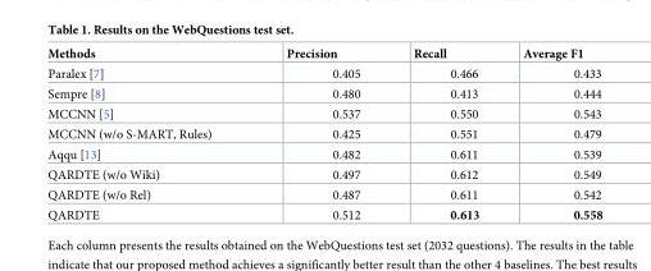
<table><thead><tr><td>Methods</td><td>Precision</td><td>Recall</td><td>Average F1</td></tr></thead><tbody><tr><td>Paralex [7]</td><td>0.405</td><td>0.466</td><td>0.433</td></tr><tr><td>Sempre [8]</td><td>0.480</td><td>0.413</td><td>0.444</td></tr><tr><td>MCCNN [5]</td><td>0.537</td><td>0.550</td><td>0.543</td></tr><tr><td>MCCNN (w/o S-MART, Rules)</td><td>0.425</td><td>0.551</td><td>0.479</td></tr><tr><td>Aqqu [13]</td><td>0.482</td><td>0.611</td><td>0.539</td></tr><tr><td>QARDTE (w/o Wiki)</td><td>0.497</td><td>0.612</td><td>0.549</td></tr><tr><td>QARDTE (w/o Rel)</td><td>0.487</td><td>0.611</td><td>0.542</td></tr><tr><td>QARDTE</td><td>0.512</td><td>0.613</td><td>0.558</td></tr></tbody></table>